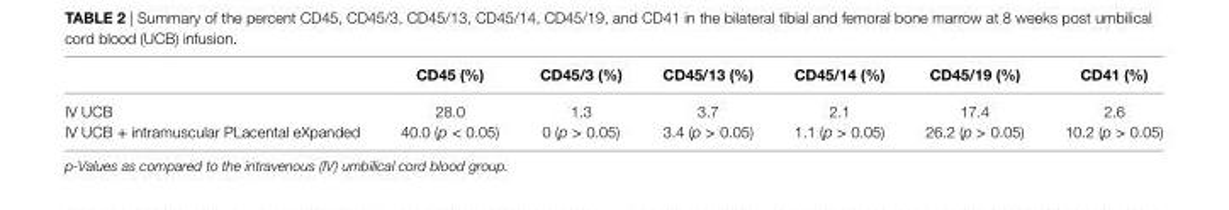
<table><thead><tr><td></td><td>cD45 (%)</td><td>cD45/3 (%)</td><td>cD45/13 (%)</td><td>cD45/14 (%)</td><td>cD45/19 (%)</td><td>cD41 (%)</td></tr></thead><tbody><tr><td>IV UCB</td><td>28.0</td><td>1.3</td><td>3.7</td><td>2.1</td><td>17.4</td><td>2.6</td></tr><tr><td>IV UCB + intramuscular PLacental eXpanded</td><td>40.0 (p &lt; 0.05)</td><td>0 (p &gt; 0.05)</td><td>3.4 (p &gt; 0.05)</td><td>1.1 (p &gt; 0.05)</td><td>26.2 (p &gt; 0.05)</td><td>10.2 (p &gt; 0.05)</td></tr></tbody></table>